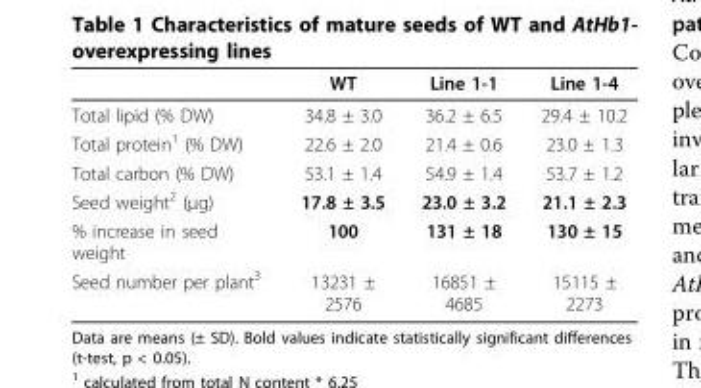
<table><thead><tr><td></td><td>WT</td><td>Line 1-1</td><td>Line 1-4</td></tr></thead><tbody><tr><td>Total lipid (% DW)</td><td>34.8 ± 3.0</td><td>36.2 ± 6.5</td><td>29.4 ± 10.2</td></tr><tr><td>Total protein<sup>1</sup> (% DW)</td><td>22.6 ± 2.0</td><td>21.4 ± 0.6</td><td>23.0 ± 1.3</td></tr><tr><td>Total carbon (% DW)</td><td>53.1 ± 1.4</td><td>54.9 ± 1.4</td><td>53.7 ± 1.2</td></tr><tr><td>Seed weight<sup>2</sup> (μg)</td><td>17.8 ± 3.5</td><td>23.0 ± 3.2</td><td>21.1 ± 2.3</td></tr><tr><td>% increase in seed weight</td><td>100</td><td>131 ± 18</td><td>130 ± 15</td></tr><tr><td>Seed number per plant<sup>3</sup></td><td>13231 ± 2576</td><td>16851 ± 4685</td><td>15115 ± 2273</td></tr></tbody></table>